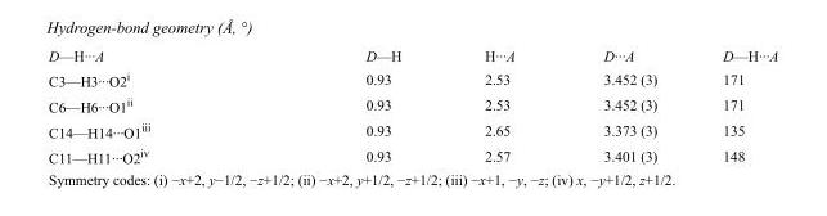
<table><tbody><tr><td>D—H···A</td><td>D—H</td><td>H···A</td><td>D···A</td><td>D—H···A</td></tr><tr><td>C3—H3···O2<sup>i</sup></td><td>0.93</td><td>2.53</td><td>3.452 (3)</td><td>171</td></tr><tr><td>C6—H6···O1<sup>ii</sup></td><td>0.93</td><td>2.53</td><td>3.452 (3)</td><td>171</td></tr><tr><td>C14—H14···O1<sup>iii</sup></td><td>0.93</td><td>2.65</td><td>3.373 (3)</td><td>135</td></tr><tr><td>C11—H11···O2<sup>iv</sup></td><td>0.93</td><td>2.57</td><td>3.401 (3)</td><td>148</td></tr></tbody></table>